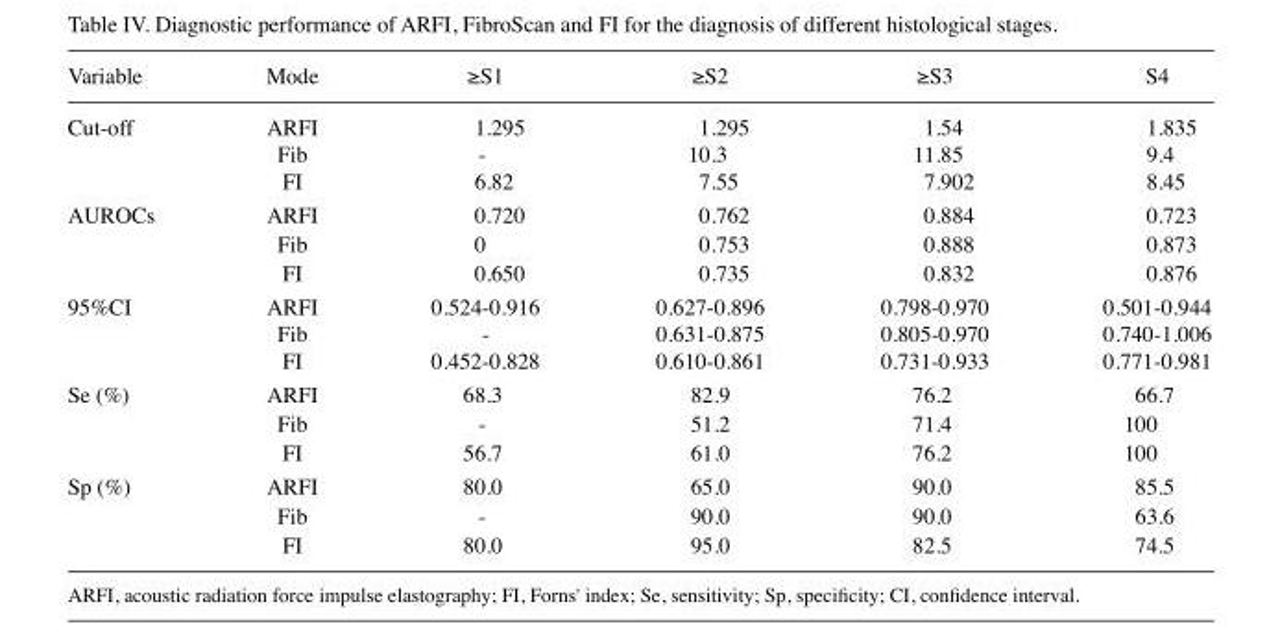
<table><thead><tr><td>Variable</td><td>Mode</td><td>≥S1</td><td>≥S2</td><td>≥S3</td><td>S4</td></tr></thead><tbody><tr><td rowspan="3">Cut-off</td><td>ARFI</td><td>1.295</td><td>1.295</td><td>1.54</td><td>1.835</td></tr><tr><td>Fib</td><td>-</td><td>10.3</td><td>11.85</td><td>9.4</td></tr><tr><td>FI</td><td>6.82</td><td>7.55</td><td>7.902</td><td>8.45</td></tr><tr><td rowspan="3">AUROCs</td><td>ARFI</td><td>0.720</td><td>0.762</td><td>0.884</td><td>0.723</td></tr><tr><td>Fib</td><td>0</td><td>0.753</td><td>0.888</td><td>0.873</td></tr><tr><td>FI</td><td>0.650</td><td>0.735</td><td>0.832</td><td>0.876</td></tr><tr><td rowspan="3">95%CI</td><td>ARFI</td><td>0.524-0.916</td><td>0.627-0.896</td><td>0.798-0.970</td><td>0.501-0.944</td></tr><tr><td>Fib</td><td>-</td><td>0.631-0.875</td><td>0.805-0.970</td><td>0.740-1.006</td></tr><tr><td>FI</td><td>0.452-0.828</td><td>0.610-0.861</td><td>0.731-0.933</td><td>0.771-0.981</td></tr><tr><td rowspan="3">Se (%)</td><td>ARFI</td><td>68.3</td><td>82.9</td><td>76.2</td><td>66.7</td></tr><tr><td>Fib</td><td>-</td><td>51.2</td><td>71.4</td><td>100</td></tr><tr><td>FI</td><td>56.7</td><td>61.0</td><td>76.2</td><td>100</td></tr><tr><td rowspan="3">Sp (%)</td><td>ARFI</td><td>80.0</td><td>65.0</td><td>90.0</td><td>85.5</td></tr><tr><td>Fib</td><td>-</td><td>90.0</td><td>90.0</td><td>63.6</td></tr><tr><td>FI</td><td>80.0</td><td>95.0</td><td>82.5</td><td>74.5</td></tr></tbody></table>